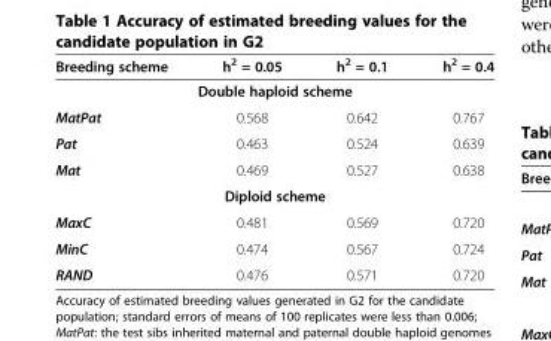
<table><thead><tr><td>Breeding scheme</td><td>h<sup>2</sup> = 0.05</td><td>h<sup>2</sup> = 0.1</td><td>h<sup>2</sup> = 0.4</td></tr></thead><tbody><tr><td colspan="4">Double haploid scheme</td></tr><tr><td>MatPat</td><td>0.568</td><td>0.642</td><td>0.767</td></tr><tr><td>Pat</td><td>0.463</td><td>0.524</td><td>0.639</td></tr><tr><td>Mat</td><td>0.469</td><td>0.527</td><td>0.638</td></tr><tr><td colspan="4">Diploid scheme</td></tr><tr><td>MaxC</td><td>0.481</td><td>0.569</td><td>0.720</td></tr><tr><td>MinC</td><td>0.474</td><td>0.567</td><td>0.724</td></tr><tr><td>RAND</td><td>0.476</td><td>0.571</td><td>0.720</td></tr></tbody></table>